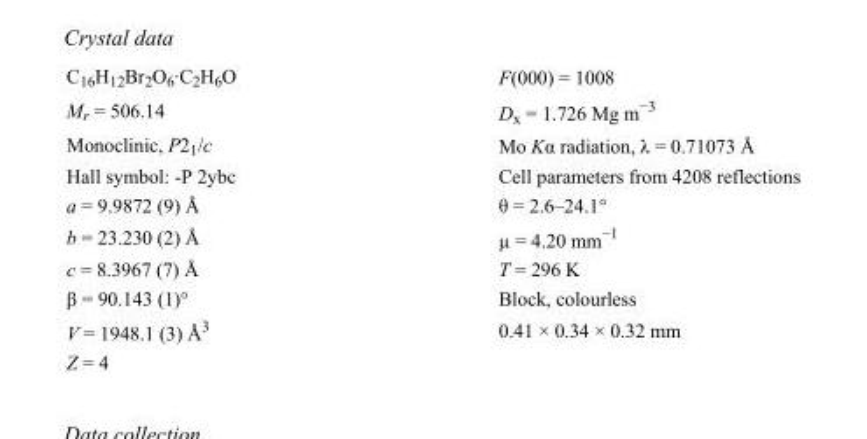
<table><tbody><tr><td>C<sub>16</sub>H<sub>12</sub>Br<sub>2</sub>O<sub>6</sub>·C<sub>2</sub>H<sub>6</sub>O</td><td>F(000) = 1008</td></tr><tr><td>M<sub>r</sub> = 506.14</td><td>D<sub>x</sub> = 1.726 Mg m<sup>−3</sup></td></tr><tr><td>Monoclinic, P2<sub>1</sub>/c</td><td>Mo Kα radiation, λ = 0.71073 Å</td></tr><tr><td>Hall symbol: -P 2ybc</td><td>Cell parameters from 4208 reflections</td></tr><tr><td>a = 9.9872 (9) Å</td><td>θ = 2.6–24.1°</td></tr><tr><td>b = 23.230 (2) Å</td><td>µ = 4.20 mm<sup>−1</sup></td></tr><tr><td>c = 8.3967 (7) Å</td><td>T = 296 K</td></tr><tr><td>β = 90.143 (1)°</td><td>Block, colourless</td></tr><tr><td>V = 1948.1 (3) Å<sup>3</sup></td><td>0.41 × 0.34 × 0.32 mm</td></tr><tr><td>Z = 4</td><td></td></tr></tbody></table>